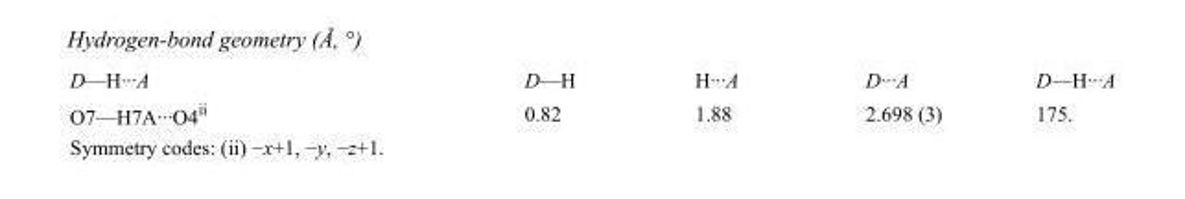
<table><tbody><tr><td>D—H···A</td><td>D—H</td><td>H···A</td><td>D···A</td><td>D—H···A</td></tr><tr><td>O7—H7A···O4<sup>ii</sup></td><td>0.82</td><td>1.88</td><td>2.698 (3)</td><td>175.</td></tr></tbody></table>